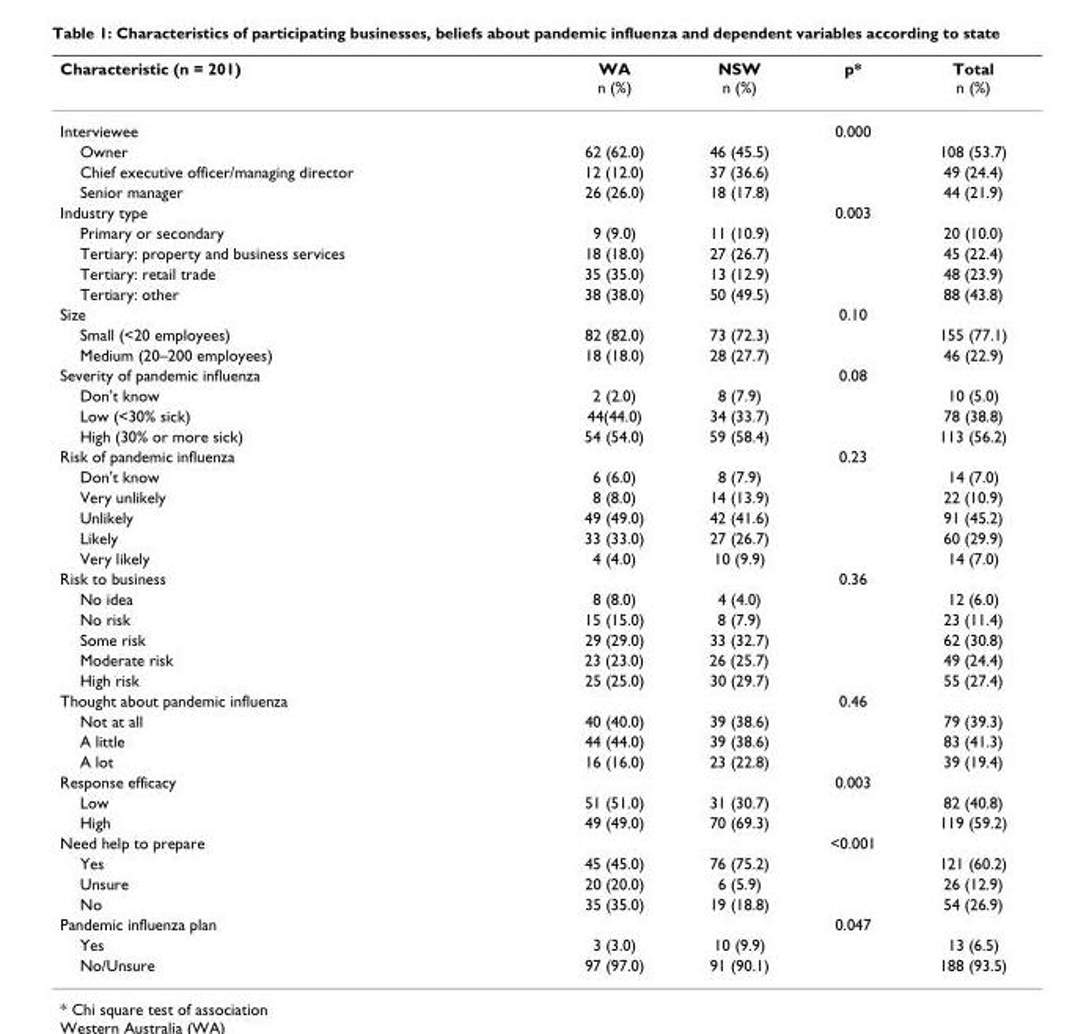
<table><thead><tr><td>Characteristic (n = 201)</td><td>WA n (%)</td><td>NSW n (%)</td><td>p*</td><td>Total n (%)</td></tr></thead><tbody><tr><td>Interviewee</td><td></td><td></td><td>0.000</td><td></td></tr><tr><td>Owner</td><td>62 (62.0)</td><td>46 (45.5)</td><td></td><td>108 (53.7)</td></tr><tr><td>Chief executive officer/managing director</td><td>12 (12.0)</td><td>37 (36.6)</td><td></td><td>49 (24.4)</td></tr><tr><td>Senior manager</td><td>26 (26.0)</td><td>18 (17.8)</td><td></td><td>44 (21.9)</td></tr><tr><td>Industry type</td><td></td><td></td><td>0.003</td><td></td></tr><tr><td>Primary or secondary</td><td>9 (9.0)</td><td>11 (10.9)</td><td></td><td>20 (10.0)</td></tr><tr><td>Tertiary: property and business services</td><td>18 (18.0)</td><td>27 (26.7)</td><td></td><td>45 (22.4)</td></tr><tr><td>Tertiary: retail trade</td><td>35 (35.0)</td><td>13 (12.9)</td><td></td><td>48 (23.9)</td></tr><tr><td>Tertiary: other</td><td>38 (38.0)</td><td>50 (49.5)</td><td></td><td>88 (43.8)</td></tr><tr><td>Size</td><td></td><td></td><td>0.10</td><td></td></tr><tr><td>Small (&lt;20 employees)</td><td>82 (82.0)</td><td>73 (72.3)</td><td></td><td>155 (77.1)</td></tr><tr><td>Medium (20–200 employees)</td><td>18 (18.0)</td><td>28 (27.7)</td><td></td><td>46 (22.9)</td></tr><tr><td>Severity of pandemic influenza</td><td></td><td></td><td>0.08</td><td></td></tr><tr><td>Don&#x27;t know</td><td>2 (2.0)</td><td>8 (7.9)</td><td></td><td>10 (5.0)</td></tr><tr><td>Low (&lt;30% sick)</td><td>44(44.0)</td><td>34 (33.7)</td><td></td><td>78 (38.8)</td></tr><tr><td>High (30% or more sick)</td><td>54 (54.0)</td><td>59 (58.4)</td><td></td><td>113 (56.2)</td></tr><tr><td>Risk of pandemic influenza</td><td></td><td></td><td>0.23</td><td></td></tr><tr><td>Don&#x27;t know</td><td>6 (6.0)</td><td>8 (7.9)</td><td></td><td>14 (7.0)</td></tr><tr><td>Very unlikely</td><td>8 (8.0)</td><td>14 (13.9)</td><td></td><td>22 (10.9)</td></tr><tr><td>Unlikely</td><td>49 (49.0)</td><td>42 (41.6)</td><td></td><td>91 (45.2)</td></tr><tr><td>Likely</td><td>33 (33.0)</td><td>27 (26.7)</td><td></td><td>60 (29.9)</td></tr><tr><td>Very likely</td><td>4 (4.0)</td><td>10 (9.9)</td><td></td><td>14 (7.0)</td></tr><tr><td>Risk to business</td><td></td><td></td><td>0.36</td><td></td></tr><tr><td>No idea</td><td>8 (8.0)</td><td>4 (4.0)</td><td></td><td>12 (6.0)</td></tr><tr><td>No risk</td><td>15 (15.0)</td><td>8 (7.9)</td><td></td><td>23 (11.4)</td></tr><tr><td>Some risk</td><td>29 (29.0)</td><td>33 (32.7)</td><td></td><td>62 (30.8)</td></tr><tr><td>Moderate risk</td><td>23 (23.0)</td><td>26 (25.7)</td><td></td><td>49 (24.4)</td></tr><tr><td>High risk</td><td>25 (25.0)</td><td>30 (29.7)</td><td></td><td>55 (27.4)</td></tr><tr><td>Thought about pandemic influenza</td><td></td><td></td><td>0.46</td><td></td></tr><tr><td>Not at all</td><td>40 (40.0)</td><td>39 (38.6)</td><td></td><td>79 (39.3)</td></tr><tr><td>A little</td><td>44 (44.0)</td><td>39 (38.6)</td><td></td><td>83 (41.3)</td></tr><tr><td>A lot</td><td>16 (16.0)</td><td>23 (22.8)</td><td></td><td>39 (19.4)</td></tr><tr><td>Response efficacy</td><td></td><td></td><td>0.003</td><td></td></tr><tr><td>Low</td><td>51 (51.0)</td><td>31 (30.7)</td><td></td><td>82 (40.8)</td></tr><tr><td>High</td><td>49 (49.0)</td><td>70 (69.3)</td><td></td><td>119 (59.2)</td></tr><tr><td>Need help to prepare</td><td></td><td></td><td>&lt;0.001</td><td></td></tr><tr><td>Yes</td><td>45 (45.0)</td><td>76 (75.2)</td><td></td><td>121 (60.2)</td></tr><tr><td>Unsure</td><td>20 (20.0)</td><td>6 (5.9)</td><td></td><td>26 (12.9)</td></tr><tr><td>No</td><td>35 (35.0)</td><td>19 (18.8)</td><td></td><td>54 (26.9)</td></tr><tr><td>Pandemic influenza plan</td><td></td><td></td><td>0.047</td><td></td></tr><tr><td>Yes</td><td>3 (3.0)</td><td>10 (9.9)</td><td></td><td>13 (6.5)</td></tr><tr><td>No/Unsure</td><td>97 (97.0)</td><td>91 (90.1)</td><td></td><td>188 (93.5)</td></tr></tbody></table>